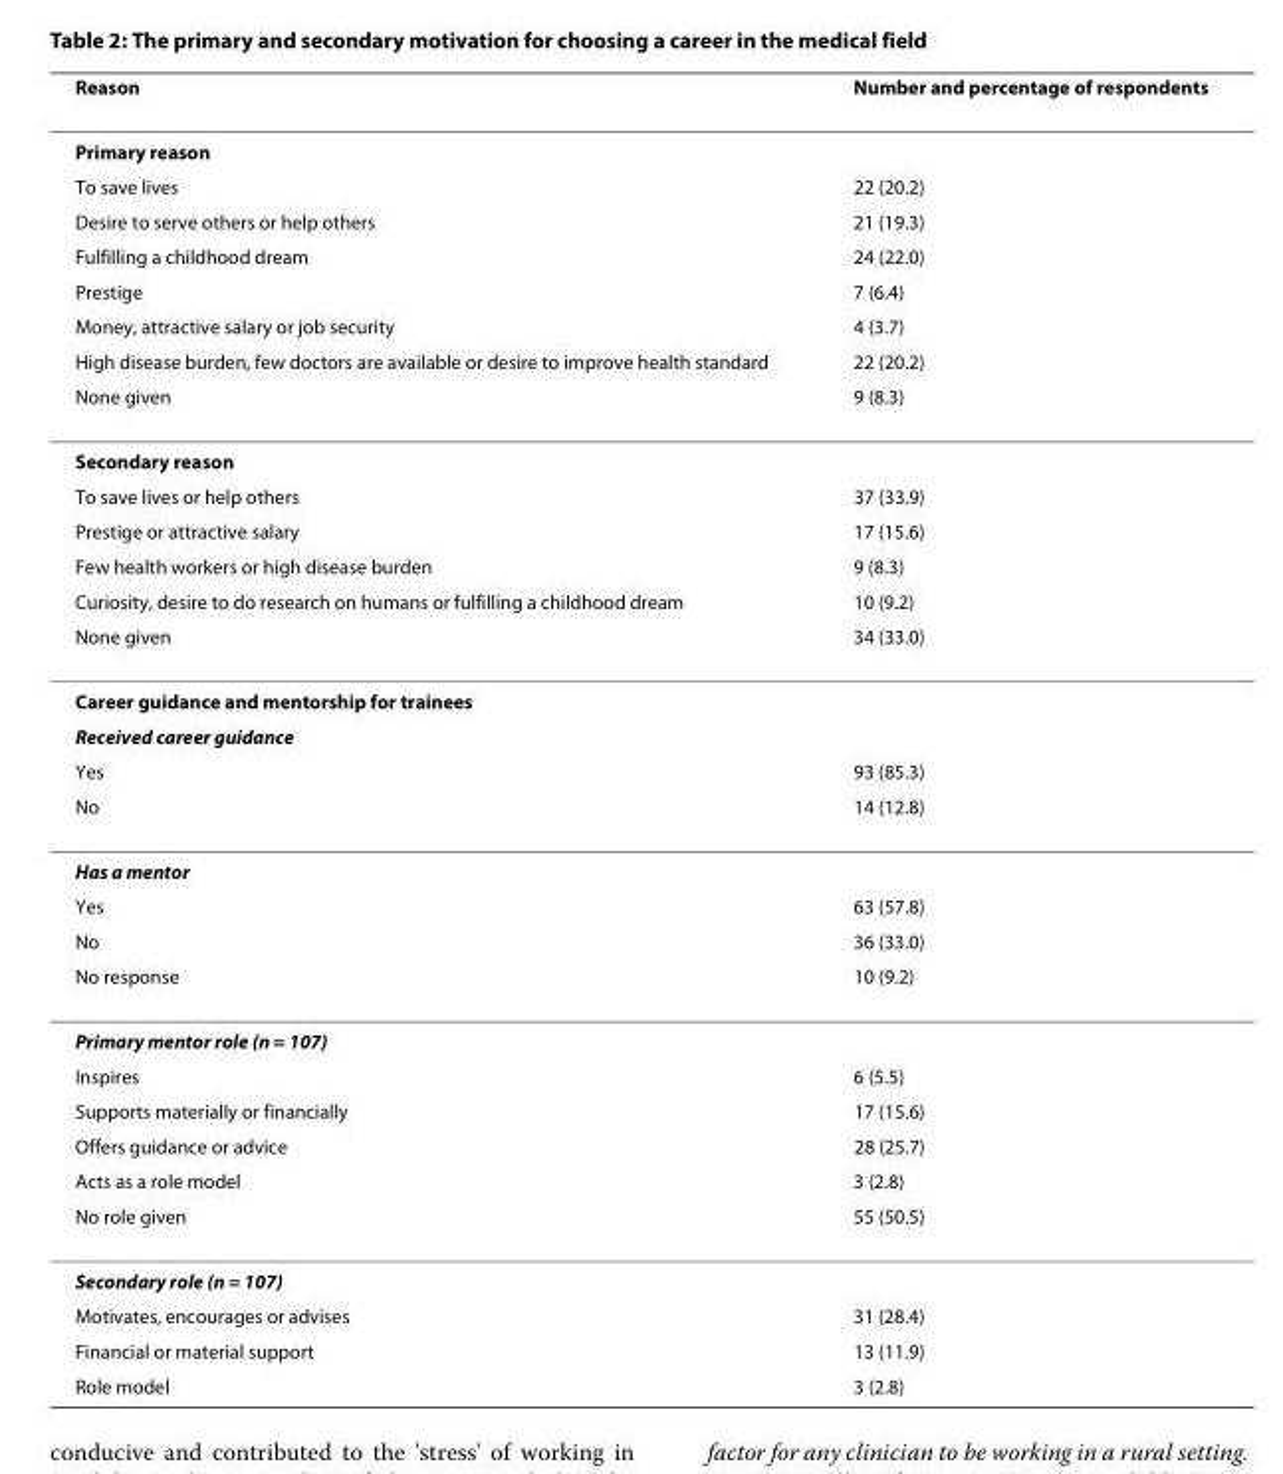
<table><thead><tr><td>Reason</td><td>Number and percentage of respondents</td></tr></thead><tbody><tr><td colspan="2">Primary reason</td></tr><tr><td>To save lives</td><td>22 (20.2)</td></tr><tr><td>Desire to serve others or help others</td><td>21 (19.3)</td></tr><tr><td>Fulfilling a childhood dream</td><td>24 (22.0)</td></tr><tr><td>Prestige</td><td>7 (6.4)</td></tr><tr><td>Money, attractive salary or job security</td><td>4 (3.7)</td></tr><tr><td>High disease burden, few doctors are available or desire to improve health standard</td><td>22 (20.2)</td></tr><tr><td>None given</td><td>9 (8.3)</td></tr><tr><td colspan="2">Secondary reason</td></tr><tr><td>To save lives or help others</td><td>37 (33.9)</td></tr><tr><td>Prestige or attractive salary</td><td>17 (15.6)</td></tr><tr><td>Few health workers or high disease burden</td><td>9 (8.3)</td></tr><tr><td>Curiosity, desire to do research on humans or fulfilling a childhood dream</td><td>10 (9.2)</td></tr><tr><td>None given</td><td>34 (33.0)</td></tr><tr><td colspan="2">Career guidance and mentorship for trainees</td></tr><tr><td colspan="2">Received career guidance</td></tr><tr><td>Yes</td><td>93 (85.3)</td></tr><tr><td>No</td><td>14 (12.8)</td></tr><tr><td colspan="2">Has a mentor</td></tr><tr><td>Yes</td><td>63 (57.8)</td></tr><tr><td>No</td><td>36 (33.0)</td></tr><tr><td>No response</td><td>10 (9.2)</td></tr><tr><td colspan="2">Primary mentor role (n = 107)</td></tr><tr><td>Inspires</td><td>6 (5.5)</td></tr><tr><td>Supports materially or financially</td><td>17 (15.6)</td></tr><tr><td>Offers guidance or advice</td><td>28 (25.7)</td></tr><tr><td>Acts as a role model</td><td>3 (2.8)</td></tr><tr><td>No role given</td><td>55 (50.5)</td></tr><tr><td colspan="2">Secondary role (n = 107)</td></tr><tr><td>Motivates, encourages or advises</td><td>31 (28.4)</td></tr><tr><td>Financial or material support</td><td>13 (11.9)</td></tr><tr><td>Role model</td><td>3 (2.8)</td></tr></tbody></table>